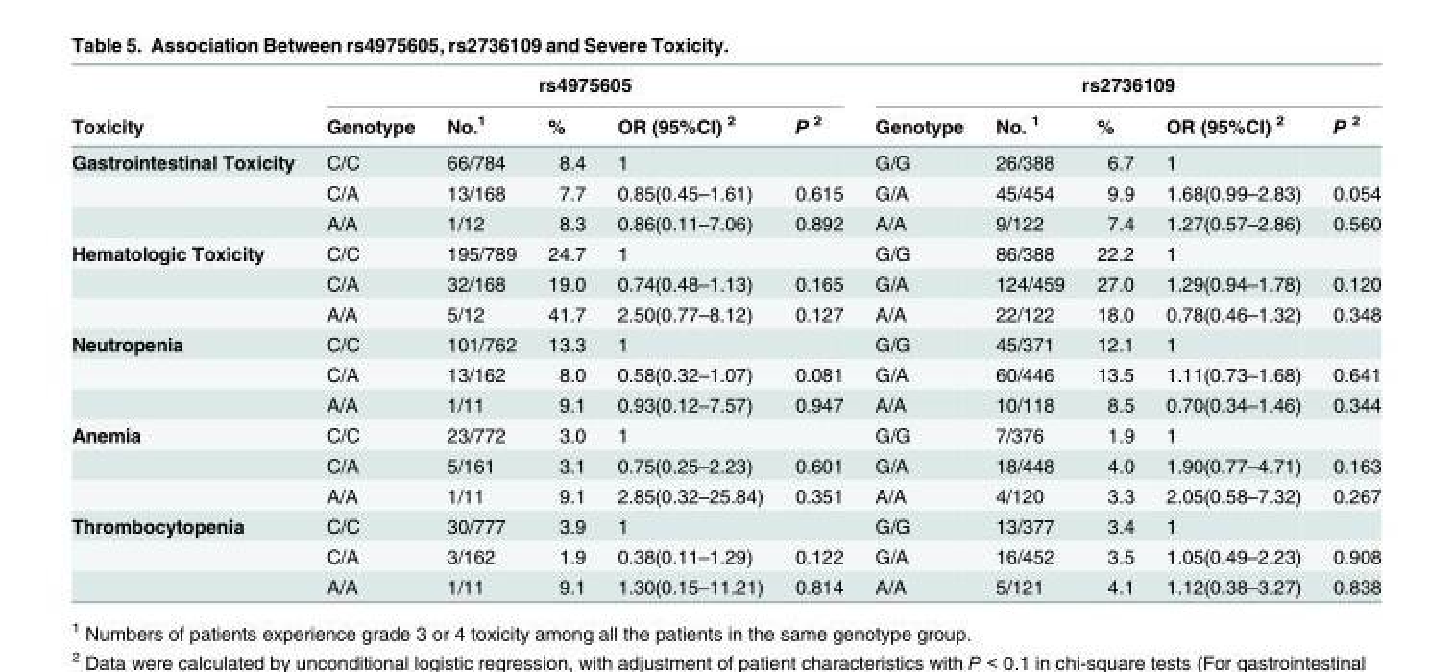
<table><thead><tr><td rowspan="2">Toxicity</td><td colspan="5">rs4975605</td><td colspan="5">rs2736109</td></tr><tr><td>Genotype</td><td>No.<sup>1</sup></td><td>%</td><td>OR (95%CI) <sup>2</sup></td><td>P <sup>2</sup></td><td>Genotype</td><td>No. <sup>1</sup></td><td>%</td><td>OR (95%CI) <sup>2</sup></td><td>P <sup>2</sup></td></tr></thead><tbody><tr><td rowspan="3">Gastrointestinal Toxicity</td><td>C/C</td><td>66/784</td><td>8.4</td><td>1</td><td></td><td>G/G</td><td>26/388</td><td>6.7</td><td>1</td><td></td></tr><tr><td>C/A</td><td>13/168</td><td>7.7</td><td>0.85(0.45–1.61)</td><td>0.615</td><td>G/A</td><td>45/454</td><td>9.9</td><td>1.68(0.99–2.83)</td><td>0.054</td></tr><tr><td>A/A</td><td>1/12</td><td>8.3</td><td>0.86(0.11–7.06)</td><td>0.892</td><td>A/A</td><td>9/122</td><td>7.4</td><td>1.27(0.57–2.86)</td><td>0.560</td></tr><tr><td rowspan="3">Hematologic Toxicity</td><td>C/C</td><td>195/789</td><td>24.7</td><td>1</td><td></td><td>G/G</td><td>86/388</td><td>22.2</td><td>1</td><td></td></tr><tr><td>C/A</td><td>32/168</td><td>19.0</td><td>0.74(0.48–1.13)</td><td>0.165</td><td>G/A</td><td>124/459</td><td>27.0</td><td>1.29(0.94–1.78)</td><td>0.120</td></tr><tr><td>A/A</td><td>5/12</td><td>41.7</td><td>2.50(0.77–8.12)</td><td>0.127</td><td>A/A</td><td>22/122</td><td>18.0</td><td>0.78(0.46–1.32)</td><td>0.348</td></tr><tr><td rowspan="3">Neutropenia</td><td>C/C</td><td>101/762</td><td>13.3</td><td>1</td><td></td><td>G/G</td><td>45/371</td><td>12.1</td><td>1</td><td></td></tr><tr><td>C/A</td><td>13/162</td><td>8.0</td><td>0.58(0.32–1.07)</td><td>0.081</td><td>G/A</td><td>60/446</td><td>13.5</td><td>1.11(0.73–1.68)</td><td>0.641</td></tr><tr><td>A/A</td><td>1/11</td><td>9.1</td><td>0.93(0.12–7.57)</td><td>0.947</td><td>A/A</td><td>10/118</td><td>8.5</td><td>0.70(0.34–1.46)</td><td>0.344</td></tr><tr><td rowspan="3">Anemia</td><td>C/C</td><td>23/772</td><td>3.0</td><td>1</td><td></td><td>G/G</td><td>7/376</td><td>1.9</td><td>1</td><td></td></tr><tr><td>C/A</td><td>5/161</td><td>3.1</td><td>0.75(0.25–2.23)</td><td>0.601</td><td>G/A</td><td>18/448</td><td>4.0</td><td>1.90(0.77–4.71)</td><td>0.163</td></tr><tr><td>A/A</td><td>1/11</td><td>9.1</td><td>2.85(0.32–25.84)</td><td>0.351</td><td>A/A</td><td>4/120</td><td>3.3</td><td>2.05(0.58–7.32)</td><td>0.267</td></tr><tr><td rowspan="3">Thrombocytopenia</td><td>C/C</td><td>30/777</td><td>3.9</td><td>1</td><td></td><td>G/G</td><td>13/377</td><td>3.4</td><td>1</td><td></td></tr><tr><td>C/A</td><td>3/162</td><td>1.9</td><td>0.38(0.11–1.29)</td><td>0.122</td><td>G/A</td><td>16/452</td><td>3.5</td><td>1.05(0.49–2.23)</td><td>0.908</td></tr><tr><td>A/A</td><td>1/11</td><td>9.1</td><td>1.30(0.15–11.21)</td><td>0.814</td><td>A/A</td><td>5/121</td><td>4.1</td><td>1.12(0.38–3.27)</td><td>0.838</td></tr></tbody></table>